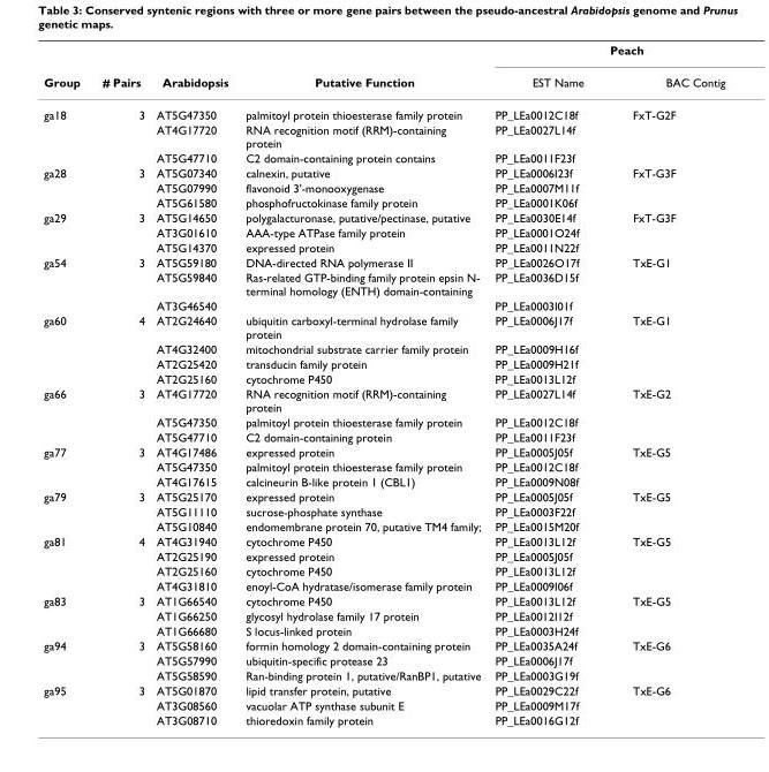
<table><thead><tr><td rowspan="2">Group</td><td rowspan="2"># Pairs</td><td rowspan="2">Arabidopsis</td><td rowspan="2">Putative Function</td><td colspan="2">Peach</td></tr><tr><td>EST Name</td><td>BAC Contig</td></tr></thead><tbody><tr><td rowspan="3">ga18</td><td>3</td><td>AT5G47350</td><td>palmitoyl protein thioesterase family protein</td><td>PP_LEa0012C18f</td><td>FxT-G2F</td></tr><tr><td></td><td>AT4G17720</td><td>RNA recognition motif (RRM)-containing protein</td><td>PP_LEa0027L14f</td><td></td></tr><tr><td></td><td>AT5G47710</td><td>C2 domain-containing protein contains</td><td>PP_LEa0011F23f</td><td></td></tr><tr><td rowspan="3">ga28</td><td>3</td><td>AT5G07340</td><td>calnexin, putative</td><td>PP_LEa0006I23f</td><td>FxT-G3F</td></tr><tr><td></td><td>AT5G07990</td><td>flavonoid 3&#x27;-monooxygenase</td><td>PP_LEa0007M11f</td><td></td></tr><tr><td></td><td>AT5G61580</td><td>phosphofructokinase family protein</td><td>PP_LEa0001K06f</td><td></td></tr><tr><td rowspan="3">ga29</td><td>3</td><td>AT5G14650</td><td>polygalacturonase, putative/pectinase, putative</td><td>PP_LEa0030E14f</td><td>FxT-G3F</td></tr><tr><td></td><td>AT3G01610</td><td>AAA-type ATPase family protein</td><td>PP_LEa0001O24f</td><td></td></tr><tr><td></td><td>AT5G14370</td><td>expressed protein</td><td>PP_LEa0011N22f</td><td></td></tr><tr><td rowspan="3">ga54</td><td>3</td><td>AT5G59180</td><td>DNA-directed RNA polymerase II</td><td>PP_LEa0026O17f</td><td>TxE-G1</td></tr><tr><td></td><td>AT5G59840</td><td>Ras-related GTP-binding family protein epsin N- terminal homology (ENTH) domain-containing</td><td>PP_LEa0036D15f</td><td></td></tr><tr><td></td><td>AT3G46540</td><td></td><td>PP_LEa0003I01f</td><td></td></tr><tr><td rowspan="4">ga60</td><td>4</td><td>AT2G24640</td><td>ubiquitin carboxyl-terminal hydrolase family protein</td><td>PP_LEa0006J17f</td><td>TxE-G1</td></tr><tr><td></td><td>AT4G32400</td><td>mitochondrial substrate carrier family protein</td><td>PP_LEa0009H16f</td><td></td></tr><tr><td></td><td>AT2G25420</td><td>transducin family protein</td><td>PP_LEa0009H21f</td><td></td></tr><tr><td></td><td>AT2G25160</td><td>cytochrome P450</td><td>PP_LEa0013L12f</td><td></td></tr><tr><td rowspan="3">ga66</td><td>3</td><td>AT4G17720</td><td>RNA recognition motif (RRM)-containing protein</td><td>PP_LEa0027L14f</td><td>TxE-G2</td></tr><tr><td></td><td>AT5G47350</td><td>palmitoyl protein thioesterase family protein</td><td>PP_LEa0012C18f</td><td></td></tr><tr><td></td><td>AT5G47710</td><td>C2 domain-containing protein</td><td>PP_LEa0011F23f</td><td></td></tr><tr><td rowspan="3">ga77</td><td>3</td><td>AT4G17486</td><td>expressed protein</td><td>PP_LEa0005J05f</td><td>TxE-G5</td></tr><tr><td></td><td>AT5G47350</td><td>palmitoyl protein thioesterase family protein</td><td>PP_LEa0012C18f</td><td></td></tr><tr><td></td><td>AT4G17615</td><td>calcineurin B-like protein 1 (CBL1)</td><td>PP_LEa0009N08f</td><td></td></tr><tr><td rowspan="3">ga79</td><td>3</td><td>AT5G25170</td><td>expressed protein</td><td>PP_LEa0005J05f</td><td>TxE-G5</td></tr><tr><td></td><td>AT5G11110</td><td>sucrose-phosphate synthase</td><td>PP_LEa0003F22f</td><td></td></tr><tr><td></td><td>AT5G10840</td><td>endomembrane protein 70, putative TM4 family;</td><td>PP_LEa0015M20f</td><td></td></tr><tr><td rowspan="4">ga81</td><td>4</td><td>AT4G31940</td><td>cytochrome P450</td><td>PP_LEa0013L12f</td><td>TxE-G5</td></tr><tr><td></td><td>AT2G25190</td><td>expressed protein</td><td>PP_LEa0005J05f</td><td></td></tr><tr><td></td><td>AT2G25160</td><td>cytochrome P450</td><td>PP_LEa0013L12f</td><td></td></tr><tr><td></td><td>AT4G31810</td><td>enoyl-CoA hydratase/isomerase family protein</td><td>PP_LEa0009I06f</td><td></td></tr><tr><td rowspan="3">ga83</td><td>3</td><td>AT1G66540</td><td>cytochrome P450</td><td>PP_LEa0013L12f</td><td>TxE-G5</td></tr><tr><td></td><td>AT1G66250</td><td>glycosyl hydrolase family 17 protein</td><td>PP_LEa0012I12f</td><td></td></tr><tr><td></td><td>AT1G66680</td><td>S locus-linked protein</td><td>PP_LEa0003H24f</td><td></td></tr><tr><td rowspan="3">ga94</td><td>3</td><td>AT5G58160</td><td>formin homology 2 domain-containing protein</td><td>PP_LEa0035A24f</td><td>TxE-G6</td></tr><tr><td></td><td>AT5G57990</td><td>ubiquitin-specific protease 23</td><td>PP_LEa0006J17f</td><td></td></tr><tr><td></td><td>AT5G58590</td><td>Ran-binding protein 1, putative/RanBP1, putative</td><td>PP_LEa0003G19f</td><td></td></tr><tr><td rowspan="3">ga95</td><td>3</td><td>AT5G01870</td><td>lipid transfer protein, putative</td><td>PP_LEa0029C22f</td><td>TxE-G6</td></tr><tr><td></td><td>AT3G08560</td><td>vacuolar ATP synthase subunit E</td><td>PP_LEa0009M17f</td><td></td></tr><tr><td></td><td>AT3G08710</td><td>thioredoxin family protein</td><td>PP_LEa0016G12f</td><td></td></tr></tbody></table>